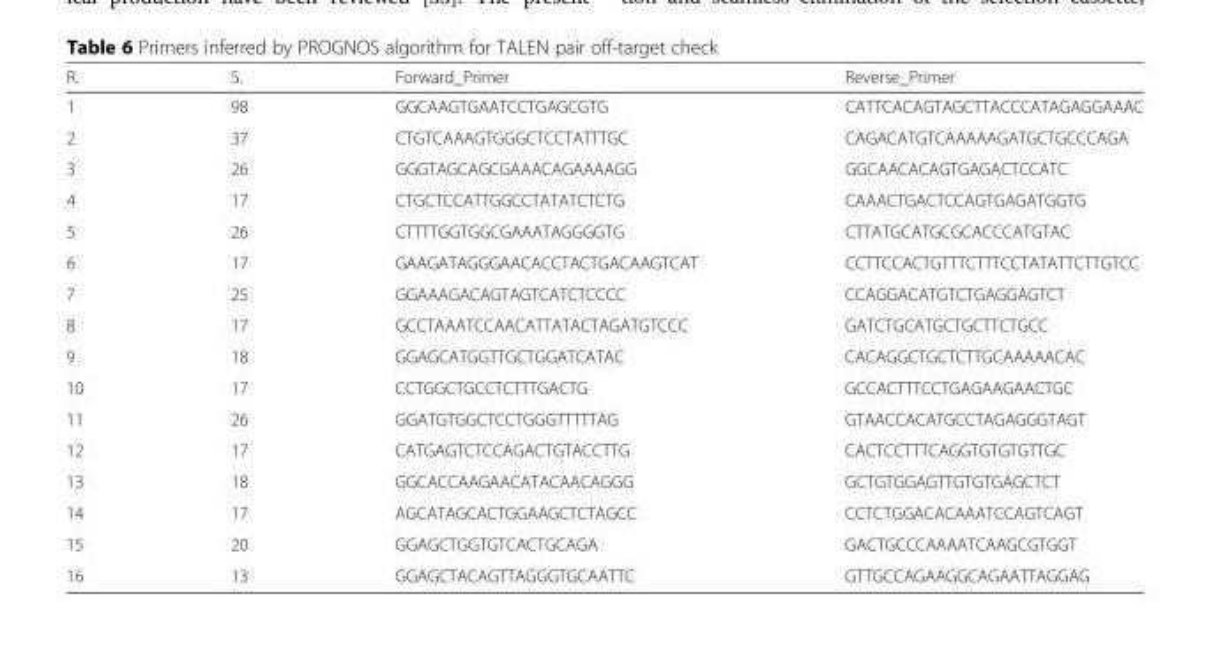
<table><thead><tr><td>R.</td><td>S.</td><td>Forward_Primer</td><td>Reverse_Primer</td></tr></thead><tbody><tr><td>1</td><td>98</td><td>GGCAAGTGAATCCTGAGCGTG</td><td>CATTCACAGTAGCTTACCCATAGAGGAAAC</td></tr><tr><td>2</td><td>37</td><td>CTGTCAAAGTGGGCTCCTATTTGC</td><td>CAGACATGTCAAAAAGATGCTGCCCAGA</td></tr><tr><td>3</td><td>26</td><td>GGGTAGCAGCGAAACAGAAAAGG</td><td>GGCAACACAGTGAGACTCCATC</td></tr><tr><td>4</td><td>17</td><td>CTGCTCCATTGGCCTATATCTCTG</td><td>CAAACTGACTCCAGTGAGATGGTG</td></tr><tr><td>5</td><td>26</td><td>CTTTTGGTGGCGAAATAGGGGTG</td><td>CTTATGCATGCGCACCCATGTAC</td></tr><tr><td>6</td><td>17</td><td>GAAGATAGGGAACACCTACTGACAAGTCAT</td><td>CCTTCCACTGTTTCTTTCCTATATTCTTGTCC</td></tr><tr><td>7</td><td>25</td><td>GGAAAGACAGTAGTCATCTCCCC</td><td>CCAGGACATGTCTGAGGAGTCT</td></tr><tr><td>8</td><td>17</td><td>GCCTAAATCCAACATTATACTAGATGTCCC</td><td>GATCTGCATGCTGCTTCTGCC</td></tr><tr><td>9</td><td>18</td><td>GGAGCATGGTTGCTGGATCATAC</td><td>CACAGGCTGCTCTTGCAAAAACAC</td></tr><tr><td>10</td><td>17</td><td>CCTGGCTGCCTCTTTGACTG</td><td>GCCACTTTCCTGAGAAGAACTGC</td></tr><tr><td>11</td><td>26</td><td>GGATGTGGCTCCTGGGTTTTTAG</td><td>GTAACCACATGCCTAGAGGGTAGT</td></tr><tr><td>12</td><td>17</td><td>CATGAGTCTCCAGACTGTACCTTG</td><td>CACTCCTTTCAGGTGTGTGTTGC</td></tr><tr><td>13</td><td>18</td><td>GGCACCAAGAACATACAACAGGG</td><td>GCTGTGGAGTTGTGTGAGCTCT</td></tr><tr><td>14</td><td>17</td><td>AGCATAGCACTGGAAGCTCTAGCC</td><td>CCTCTGGACACAAATCCAGTCAGT</td></tr><tr><td>15</td><td>20</td><td>GGAGCTGGTGTCACTGCAGA</td><td>GACTGCCCAAAATCAAGCGTGGT</td></tr><tr><td>16</td><td>13</td><td>GGAGCTACAGTTAGGGTGCAATTC</td><td>GTTGCCAGAAGGCAGAATTAGGAG</td></tr></tbody></table>